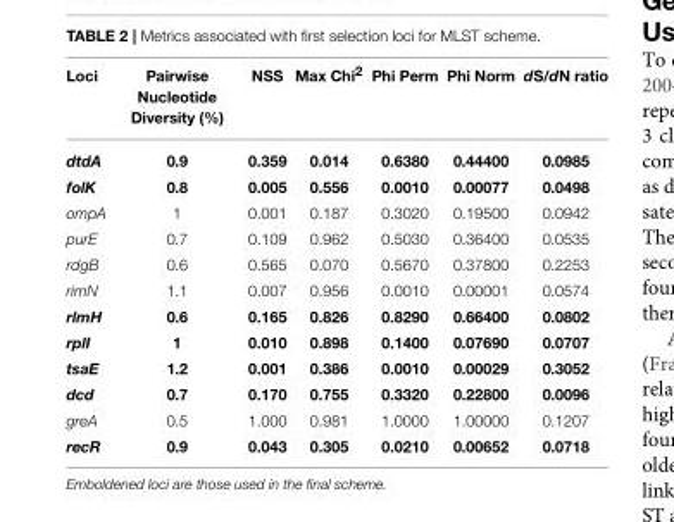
<table><thead><tr><td>Loci</td><td>Pairwise Nucleotide Diversity (%)</td><td>NSS</td><td>Max Chi<sup>2</sup></td><td>Phi Perm</td><td>Phi Norm</td><td>dS/dN ratio</td></tr></thead><tbody><tr><td>dtdA</td><td>0.9</td><td>0.359</td><td>0.014</td><td>0.6380</td><td>0.44400</td><td>0.0985</td></tr><tr><td>folK</td><td>0.8</td><td>0.005</td><td>0.556</td><td>0.0010</td><td>0.00077</td><td>0.0498</td></tr><tr><td>ompA</td><td>1</td><td>0.001</td><td>0.187</td><td>0.3020</td><td>0.19500</td><td>0.0942</td></tr><tr><td>purE</td><td>0.7</td><td>0.109</td><td>0.962</td><td>0.5030</td><td>0.36400</td><td>0.0535</td></tr><tr><td>rdgB</td><td>0.6</td><td>0.565</td><td>0.070</td><td>0.5670</td><td>0.37800</td><td>0.2253</td></tr><tr><td>rimN</td><td>1.1</td><td>0.007</td><td>0.956</td><td>0.0010</td><td>0.00001</td><td>0.0574</td></tr><tr><td>rlmH</td><td>0.6</td><td>0.165</td><td>0.826</td><td>0.8290</td><td>0.66400</td><td>0.0802</td></tr><tr><td>rplI</td><td>1</td><td>0.010</td><td>0.898</td><td>0.1400</td><td>0.07690</td><td>0.0707</td></tr><tr><td>tsaE</td><td>1.2</td><td>0.001</td><td>0.386</td><td>0.0010</td><td>0.00029</td><td>0.3052</td></tr><tr><td>dcd</td><td>0.7</td><td>0.170</td><td>0.755</td><td>0.3320</td><td>0.22800</td><td>0.0096</td></tr><tr><td>greA</td><td>0.5</td><td>1.000</td><td>0.981</td><td>1.0000</td><td>1.00000</td><td>0.1207</td></tr><tr><td>recR</td><td>0.9</td><td>0.043</td><td>0.305</td><td>0.0210</td><td>0.00652</td><td>0.0718</td></tr></tbody></table>